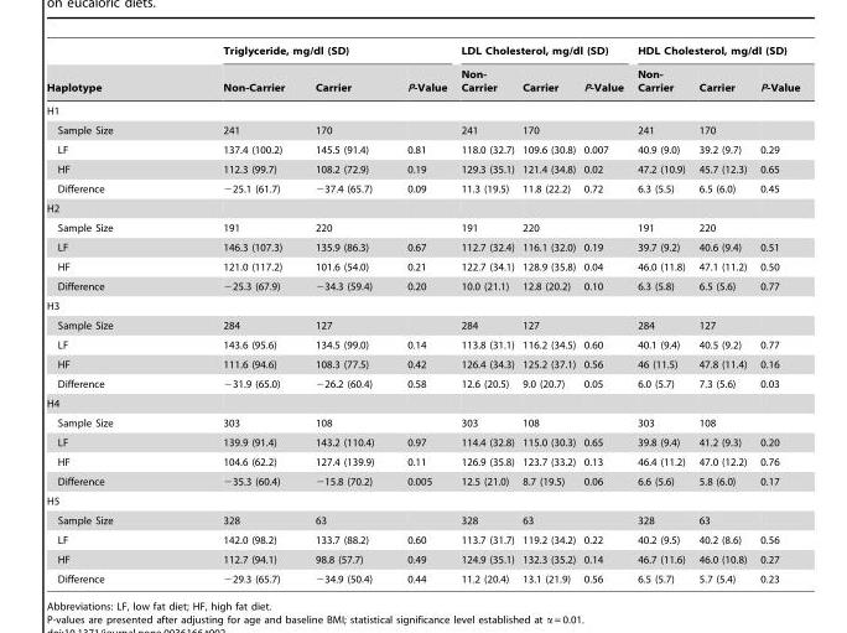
<table><thead><tr><td rowspan="2">Haplotype</td><td colspan="3">Triglyceride, mg/dl (SD)</td><td colspan="3">LDL Cholesterol, mg/dl (SD)</td><td colspan="3">HDL Cholesterol, mg/dl (SD)</td></tr><tr><td>Non-Carrier</td><td>Carrier</td><td>P-Value</td><td>Non- Carrier</td><td>Carrier</td><td>P-Value</td><td>Non- Carrier</td><td>Carrier</td><td>P-Value</td></tr></thead><tbody><tr><td colspan="10">H1</td></tr><tr><td>Sample Size</td><td>241</td><td>170</td><td></td><td>241</td><td>170</td><td></td><td>241</td><td>170</td><td></td></tr><tr><td>LF</td><td>137.4 (100.2)</td><td>145.5 (91.4)</td><td>0.81</td><td>118.0 (32.7)</td><td>109.6 (30.8)</td><td>0.007</td><td>40.9 (9.0)</td><td>39.2 (9.7)</td><td>0.29</td></tr><tr><td>HF</td><td>112.3 (99.7)</td><td>108.2 (72.9)</td><td>0.19</td><td>129.3 (35.1)</td><td>121.4 (34.8)</td><td>0.02</td><td>47.2 (10.9)</td><td>45.7 (12.3)</td><td>0.65</td></tr><tr><td>Difference</td><td>−25.1 (61.7)</td><td>−37.4 (65.7)</td><td>0.09</td><td>11.3 (19.5)</td><td>11.8 (22.2)</td><td>0.72</td><td>6.3 (5.5)</td><td>6.5 (6.0)</td><td>0.45</td></tr><tr><td colspan="10">H2</td></tr><tr><td>Sample Size</td><td>191</td><td>220</td><td></td><td>191</td><td>220</td><td></td><td>191</td><td>220</td><td></td></tr><tr><td>LF</td><td>146.3 (107.3)</td><td>135.9 (86.3)</td><td>0.67</td><td>112.7 (32.4)</td><td>116.1 (32.0)</td><td>0.19</td><td>39.7 (9.2)</td><td>40.6 (9.4)</td><td>0.51</td></tr><tr><td>HF</td><td>121.0 (117.2)</td><td>101.6 (54.0)</td><td>0.21</td><td>122.7 (34.1)</td><td>128.9 (35.8)</td><td>0.04</td><td>46.0 (11.8)</td><td>47.1 (11.2)</td><td>0.50</td></tr><tr><td>Difference</td><td>−25.3 (67.9)</td><td>−34.3 (59.4)</td><td>0.20</td><td>10.0 (21.1)</td><td>12.8 (20.2)</td><td>0.10</td><td>6.3 (5.8)</td><td>6.5 (5.6)</td><td>0.77</td></tr><tr><td colspan="10">H3</td></tr><tr><td>Sample Size</td><td>284</td><td>127</td><td></td><td>284</td><td>127</td><td></td><td>284</td><td>127</td><td></td></tr><tr><td>LF</td><td>143.6 (95.6)</td><td>134.5 (99.0)</td><td>0.14</td><td>113.8 (31.1)</td><td>116.2 (34.5)</td><td>0.60</td><td>40.1 (9.4)</td><td>40.5 (9.2)</td><td>0.77</td></tr><tr><td>HF</td><td>111.6 (94.6)</td><td>108.3 (77.5)</td><td>0.42</td><td>126.4 (34.3)</td><td>125.2 (37.1)</td><td>0.56</td><td>46 (11.5)</td><td>47.8 (11.4)</td><td>0.16</td></tr><tr><td>Difference</td><td>−31.9 (65.0)</td><td>−26.2 (60.4)</td><td>0.58</td><td>12.6 (20.5)</td><td>9.0 (20.7)</td><td>0.05</td><td>6.0 (5.7)</td><td>7.3 (5.6)</td><td>0.03</td></tr><tr><td colspan="10">H4</td></tr><tr><td>Sample Size</td><td>303</td><td>108</td><td></td><td>303</td><td>108</td><td></td><td>303</td><td>108</td><td></td></tr><tr><td>LF</td><td>139.9 (91.4)</td><td>143.2 (110.4)</td><td>0.97</td><td>114.4 (32.8)</td><td>115.0 (30.3)</td><td>0.65</td><td>39.8 (9.4)</td><td>41.2 (9.3)</td><td>0.20</td></tr><tr><td>HF</td><td>104.6 (62.2)</td><td>127.4 (139.9)</td><td>0.11</td><td>126.9 (35.8)</td><td>123.7 (33.2)</td><td>0.13</td><td>46.4 (11.2)</td><td>47.0 (12.2)</td><td>0.76</td></tr><tr><td>Difference</td><td>−35.3 (60.4)</td><td>−15.8 (70.2)</td><td>0.005</td><td>12.5 (21.0)</td><td>8.7 (19.5)</td><td>0.06</td><td>6.6 (5.6)</td><td>5.8 (6.0)</td><td>0.17</td></tr><tr><td colspan="10">H5</td></tr><tr><td>Sample Size</td><td>328</td><td>63</td><td></td><td>328</td><td>63</td><td></td><td>328</td><td>63</td><td></td></tr><tr><td>LF</td><td>142.0 (98.2)</td><td>133.7 (88.2)</td><td>0.60</td><td>113.7 (31.7)</td><td>119.2 (34.2)</td><td>0.22</td><td>40.2 (9.5)</td><td>40.2 (8.6)</td><td>0.56</td></tr><tr><td>HF</td><td>112.7 (94.1)</td><td>98.8 (57.7)</td><td>0.49</td><td>124.9 (35.1)</td><td>132.3 (35.2)</td><td>0.14</td><td>46.7 (11.6)</td><td>46.0 (10.8)</td><td>0.27</td></tr><tr><td>Difference</td><td>−29.3 (65.7)</td><td>−34.9 (50.4)</td><td>0.44</td><td>11.2 (20.4)</td><td>13.1 (21.9)</td><td>0.56</td><td>6.5 (5.7)</td><td>5.7 (5.4)</td><td>0.23</td></tr></tbody></table>